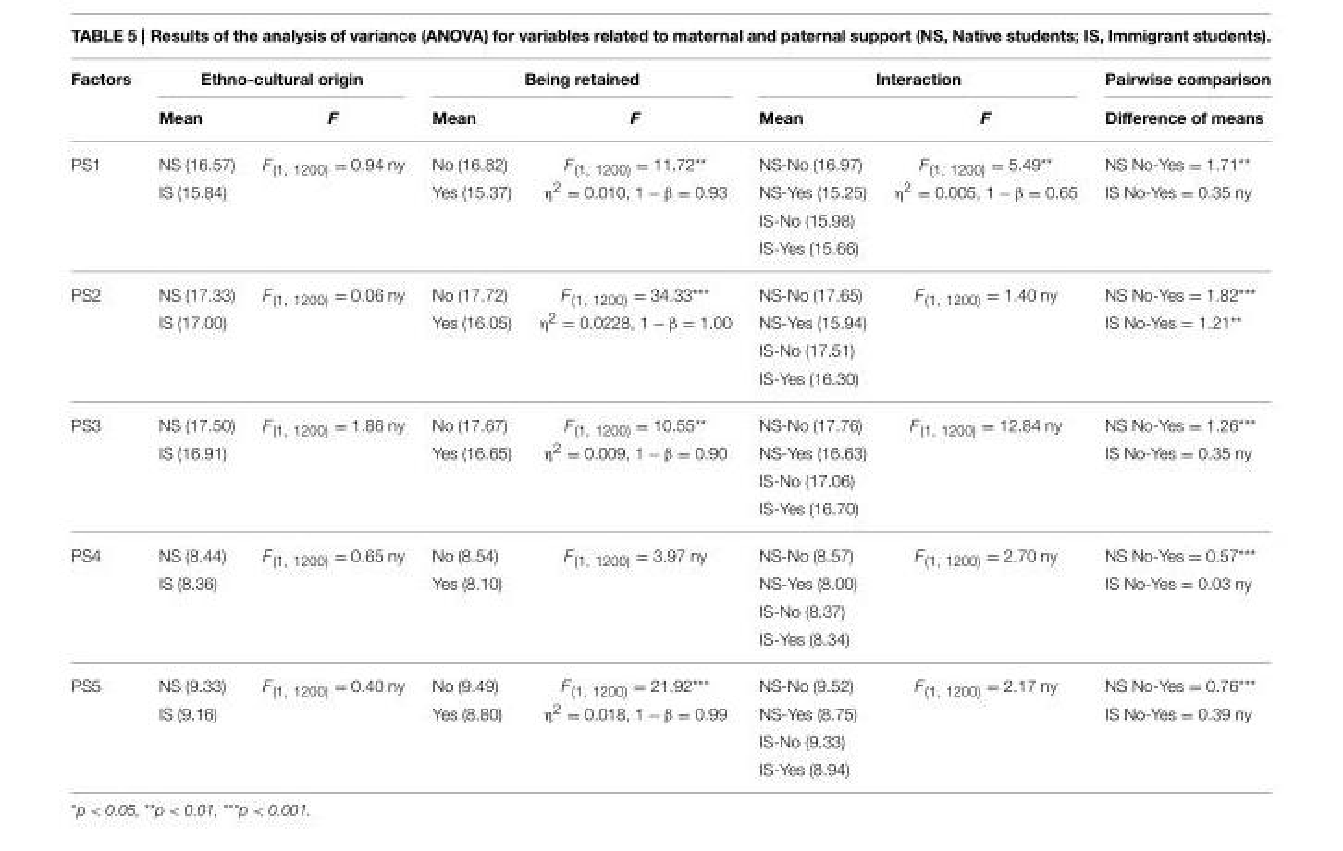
<table><thead><tr><td rowspan="2">Factors</td><td colspan="2">Ethno-cultural origin</td><td colspan="2">Being retained</td><td colspan="2">Interaction</td><td rowspan="2">Pairwise comparison Difference of means</td></tr><tr><td>Mean</td><td>F</td><td>Mean</td><td>F</td><td>Mean</td><td>F</td></tr></thead><tbody><tr><td rowspan="4">PS1</td><td>NS (16.57)</td><td>F<sub>(1, 1200)</sub> = 0.94 ny</td><td>No (16.82)</td><td>F<sub>(1, 1200)</sub> = 11.72**</td><td>NS-No (16.97)</td><td>F<sub>(1, 1200)</sub> = 5.49**</td><td>NS No-Yes = 1.71**</td></tr><tr><td>IS (15.84)</td><td></td><td>Yes (15.37)</td><td>η<sup>2</sup> = 0.010, 1 − β = 0.93</td><td>NS-Yes (15.25)</td><td>η<sup>2</sup> = 0.005, 1 − β = 0.65</td><td>IS No-Yes = 0.35 ny</td></tr><tr><td></td><td></td><td></td><td></td><td>IS-No (15.98)</td><td></td><td></td></tr><tr><td></td><td></td><td></td><td></td><td>IS-Yes (15.66)</td><td></td><td></td></tr><tr><td rowspan="4">PS2</td><td>NS (17.33)</td><td>F<sub>(1, 1200)</sub> = 0.06 ny</td><td>No (17.72)</td><td>F<sub>(1, 1200)</sub> = 34.33***</td><td>NS-No (17.65)</td><td>F<sub>(1, 1200)</sub> = 1.40 ny</td><td>NS No-Yes = 1.82***</td></tr><tr><td>IS (17.00)</td><td></td><td>Yes (16.05)</td><td>η<sup>2</sup> = 0.0228, 1 − β = 1.00</td><td>NS-Yes (15.94)</td><td></td><td>IS No-Yes = 1.21**</td></tr><tr><td></td><td></td><td></td><td></td><td>IS-No (17.51)</td><td></td><td></td></tr><tr><td></td><td></td><td></td><td></td><td>IS-Yes (16.30)</td><td></td><td></td></tr><tr><td rowspan="4">PS3</td><td>NS (17.50)</td><td>F<sub>(1, 1200)</sub> = 1.86 ny</td><td>No (17.67)</td><td>F<sub>(1, 1200)</sub> = 10.55**</td><td>NS-No (17.76)</td><td>F<sub>(1, 1200)</sub> = 12.84 ny</td><td>NS No-Yes = 1.26***</td></tr><tr><td>IS (16.91)</td><td></td><td>Yes (16.65)</td><td>η<sup>2</sup> = 0.009, 1 − β = 0.90</td><td>NS-Yes (16.63)</td><td></td><td>IS No-Yes = 0.35 ny</td></tr><tr><td></td><td></td><td></td><td></td><td>IS-No (17.06)</td><td></td><td></td></tr><tr><td></td><td></td><td></td><td></td><td>IS-Yes (16.70)</td><td></td><td></td></tr><tr><td rowspan="4">PS4</td><td>NS (8.44)</td><td>F<sub>(1, 1200)</sub> = 0.65 ny</td><td>No (8.54)</td><td>F<sub>(1, 1200)</sub> = 3.97 ny</td><td>NS-No (8.57)</td><td>F<sub>(1, 1200)</sub> = 2.70 ny</td><td>NS No-Yes = 0.57***</td></tr><tr><td>IS (8.36)</td><td></td><td>Yes (8.10)</td><td></td><td>NS-Yes (8.00)</td><td></td><td>IS No-Yes = 0.03 ny</td></tr><tr><td></td><td></td><td></td><td></td><td>IS-No (8.37)</td><td></td><td></td></tr><tr><td></td><td></td><td></td><td></td><td>IS-Yes (8.34)</td><td></td><td></td></tr><tr><td rowspan="4">PS5</td><td>NS (9.33)</td><td>F<sub>(1, 1200)</sub> = 0.40 ny</td><td>No (9.49)</td><td>F<sub>(1, 1200)</sub> = 21.92***</td><td>NS-No (9.52)</td><td>F<sub>(1, 1200)</sub> = 2.17 ny</td><td>NS No-Yes = 0.76***</td></tr><tr><td>IS (9.16)</td><td></td><td>Yes (8.80)</td><td>η<sup>2</sup> = 0.018, 1 − β = 0.99</td><td>NS-Yes (8.75)</td><td></td><td>IS No-Yes = 0.39 ny</td></tr><tr><td></td><td></td><td></td><td></td><td>IS-No (9.33)</td><td></td><td></td></tr><tr><td></td><td></td><td></td><td></td><td>IS-Yes (8.94)</td><td></td><td></td></tr></tbody></table>